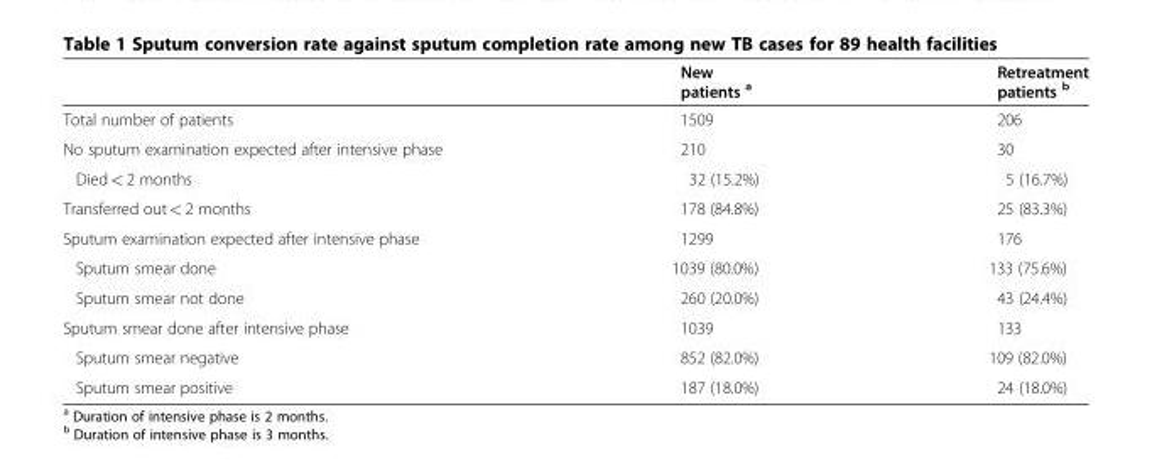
<table><thead><tr><td></td><td>New patients <sup>a</sup></td><td>Retreatment patients <sup>b</sup></td></tr></thead><tbody><tr><td>Total number of patients</td><td>1509</td><td>206</td></tr><tr><td>No sputum examination expected after intensive phase</td><td>210</td><td>30</td></tr><tr><td>Died &lt; 2 months</td><td>32 (15.2%)</td><td>5 (16.7%)</td></tr><tr><td>Transferred out &lt; 2 months</td><td>178 (84.8%)</td><td>25 (83.3%)</td></tr><tr><td>Sputum examination expected after intensive phase</td><td>1299</td><td>176</td></tr><tr><td>Sputum smear done</td><td>1039 (80.0%)</td><td>133 (75.6%)</td></tr><tr><td>Sputum smear not done</td><td>260 (20.0%)</td><td>43 (24.4%)</td></tr><tr><td>Sputum smear done after intensive phase</td><td>1039</td><td>133</td></tr><tr><td>Sputum smear negative</td><td>852 (82.0%)</td><td>109 (82.0%)</td></tr><tr><td>Sputum smear positive</td><td>187 (18.0%)</td><td>24 (18.0%)</td></tr></tbody></table>